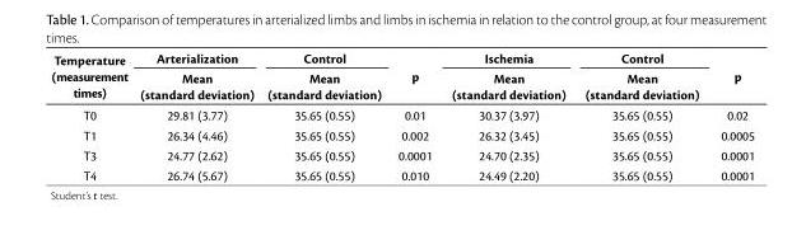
<table><thead><tr><td rowspan="2">Temperature (measurement times)</td><td rowspan="2">Arterialization Mean (standard deviation)</td><td rowspan="2">Control Mean (standard deviation)</td><td rowspan="2">p</td><td rowspan="2">Ischemia Mean (standard deviation)</td><td rowspan="2">Control Mean (standard deviation)</td><td rowspan="2">p</td></tr><tr></tr></thead><tbody><tr><td>T0</td><td>29.81 (3.77)</td><td>35.65 (0.55)</td><td>0.01</td><td>30.37 (3.97)</td><td>35.65 (0.55)</td><td>0.02</td></tr><tr><td>T1</td><td>26.34 (4.46)</td><td>35.65 (0.55)</td><td>0.002</td><td>26.32 (3.45)</td><td>35.65 (0.55)</td><td>0.0005</td></tr><tr><td>T3</td><td>24.77 (2.62)</td><td>35.65 (0.55)</td><td>0.0001</td><td>24.70 (2.35)</td><td>35.65 (0.55)</td><td>0.0001</td></tr><tr><td>T4</td><td>26.74 (5.67)</td><td>35.65 (0.55)</td><td>0.010</td><td>24.49 (2.20)</td><td>35.65 (0.55)</td><td>0.0001</td></tr></tbody></table>